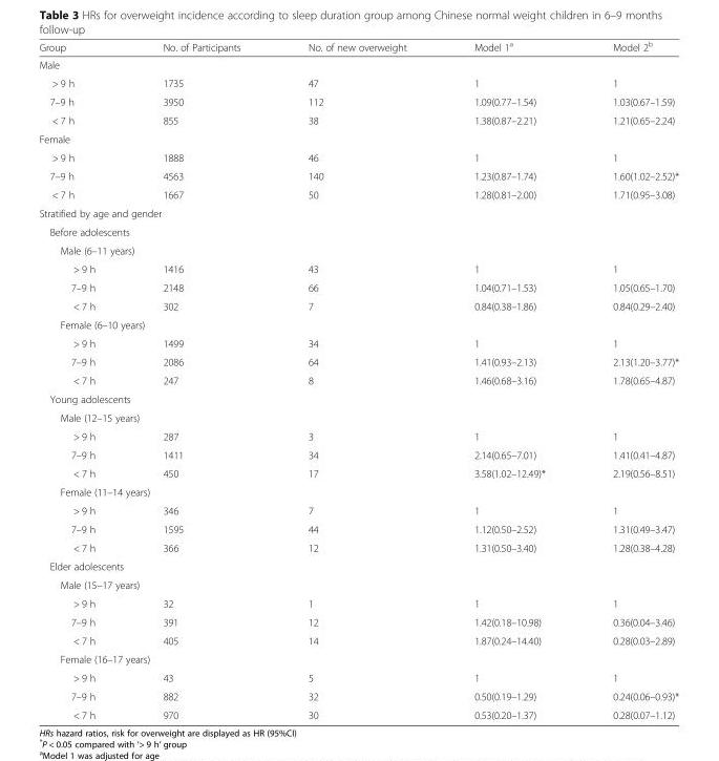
<table><thead><tr><td>Group</td><td>No. of Participants</td><td>No. of new overweight</td><td>Model 1<sup>a</sup></td><td>Model 2<sup>b</sup></td></tr></thead><tbody><tr><td colspan="5">Male</td></tr><tr><td>&gt; 9 h</td><td>1735</td><td>47</td><td>1</td><td>1</td></tr><tr><td>7–9 h</td><td>3950</td><td>112</td><td>1.09(0.77–1.54)</td><td>1.03(0.67–1.59)</td></tr><tr><td>&lt; 7 h</td><td>855</td><td>38</td><td>1.38(0.87–2.21)</td><td>1.21(0.65–2.24)</td></tr><tr><td colspan="5">Female</td></tr><tr><td>&gt; 9 h</td><td>1888</td><td>46</td><td>1</td><td>1</td></tr><tr><td>7–9 h</td><td>4563</td><td>140</td><td>1.23(0.87–1.74)</td><td>1.60(1.02–2.52)*</td></tr><tr><td>&lt; 7 h</td><td>1667</td><td>50</td><td>1.28(0.81–2.00)</td><td>1.71(0.95–3.08)</td></tr><tr><td colspan="5">Stratified by age and gender</td></tr><tr><td colspan="5">Before adolescents</td></tr><tr><td colspan="5">Male (6–11 years)</td></tr><tr><td>&gt; 9 h</td><td>1416</td><td>43</td><td>1</td><td>1</td></tr><tr><td>7–9 h</td><td>2148</td><td>66</td><td>1.04(0.71–1.53)</td><td>1.05(0.65–1.70)</td></tr><tr><td>&lt; 7 h</td><td>302</td><td>7</td><td>0.84(0.38–1.86)</td><td>0.84(0.29–2.40)</td></tr><tr><td colspan="5">Female (6–10 years)</td></tr><tr><td>&gt; 9 h</td><td>1499</td><td>34</td><td>1</td><td>1</td></tr><tr><td>7–9 h</td><td>2086</td><td>64</td><td>1.41(0.93–2.13)</td><td>2.13(1.20–3.77)*</td></tr><tr><td>&lt; 7 h</td><td>247</td><td>8</td><td>1.46(0.68–3.16)</td><td>1.78(0.65–4.87)</td></tr><tr><td colspan="5">Young adolescents</td></tr><tr><td colspan="5">Male (12–15 years)</td></tr><tr><td>&gt; 9 h</td><td>287</td><td>3</td><td>1</td><td>1</td></tr><tr><td>7–9 h</td><td>1411</td><td>34</td><td>2.14(0.65–7.01)</td><td>1.41(0.41–4.87)</td></tr><tr><td>&lt; 7 h</td><td>450</td><td>17</td><td>3.58(1.02–12.49)*</td><td>2.19(0.56–8.51)</td></tr><tr><td colspan="5">Female (11–14 years)</td></tr><tr><td>&gt; 9 h</td><td>346</td><td>7</td><td>1</td><td>1</td></tr><tr><td>7–9 h</td><td>1595</td><td>44</td><td>1.12(0.50–2.52)</td><td>1.31(0.49–3.47)</td></tr><tr><td>&lt; 7 h</td><td>366</td><td>12</td><td>1.31(0.50–3.40)</td><td>1.28(0.38–4.28)</td></tr><tr><td colspan="5">Elder adolescents</td></tr><tr><td colspan="5">Male (15–17 years)</td></tr><tr><td>&gt; 9 h</td><td>32</td><td>1</td><td>1</td><td>1</td></tr><tr><td>7–9 h</td><td>391</td><td>12</td><td>1.42(0.18–10.98)</td><td>0.36(0.04–3.46)</td></tr><tr><td>&lt; 7 h</td><td>405</td><td>14</td><td>1.87(0.24–14.40)</td><td>0.28(0.03–2.89)</td></tr><tr><td colspan="5">Female (16–17 years)</td></tr><tr><td>&gt; 9 h</td><td>43</td><td>5</td><td>1</td><td>1</td></tr><tr><td>7–9 h</td><td>882</td><td>32</td><td>0.50(0.19–1.29)</td><td>0.24(0.06–0.93)*</td></tr><tr><td>&lt; 7 h</td><td>970</td><td>30</td><td>0.53(0.20–1.37)</td><td>0.28(0.07–1.12)</td></tr></tbody></table>